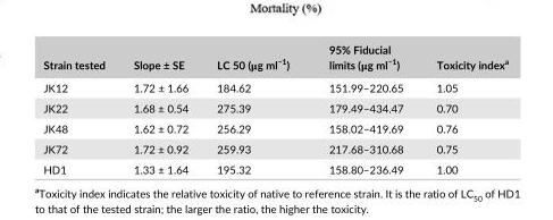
<table><thead><tr><td>Strain tested</td><td>Slope ± SE</td><td>LC 50 (μg ml<sup>−1</sup>)</td><td>95% Fiducial limits (μg ml<sup>−1</sup>)</td><td>Toxicity index<sup>a</sup></td></tr></thead><tbody><tr><td>JK12</td><td>1.72 ± 1.66</td><td>184.62</td><td>151.99–220.65</td><td>1.05</td></tr><tr><td>JK22</td><td>1.68 ± 0.54</td><td>275.39</td><td>179.49–434.47</td><td>0.70</td></tr><tr><td>JK48</td><td>1.62 ± 0.72</td><td>256.29</td><td>158.02–419.69</td><td>0.76</td></tr><tr><td>JK72</td><td>1.72 ± 0.92</td><td>259.93</td><td>217.68–310.68</td><td>0.75</td></tr><tr><td>HD1</td><td>1.33 ± 1.64</td><td>195.32</td><td>158.80–236.49</td><td>1.00</td></tr></tbody></table>